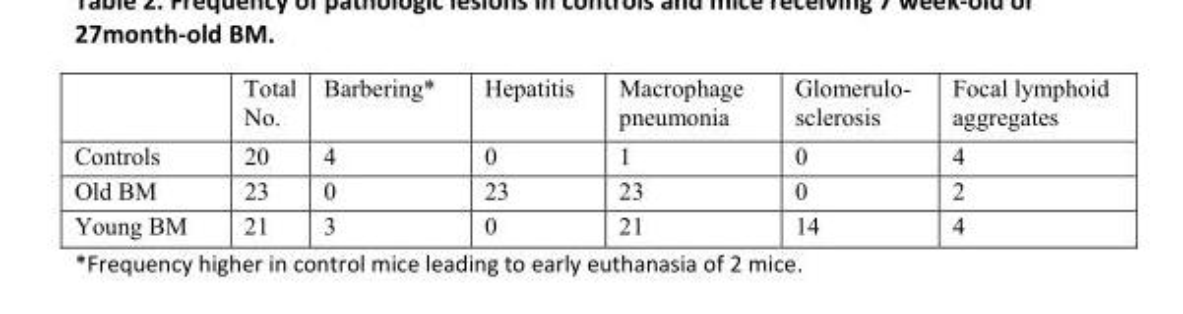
<table><thead><tr><td></td><td>Total No.</td><td>Barbering*</td><td>Hepatitis</td><td>Macrophage pneumonia</td><td>Glomerulo- sclerosis</td><td>Focal lymphoid aggregates</td></tr></thead><tbody><tr><td>Controls</td><td>20</td><td>4</td><td>0</td><td>1</td><td>0</td><td>4</td></tr><tr><td>Old BM</td><td>23</td><td>0</td><td>23</td><td>23</td><td>0</td><td>2</td></tr><tr><td>Young BM</td><td>21</td><td>3</td><td>0</td><td>21</td><td>14</td><td>4</td></tr></tbody></table>